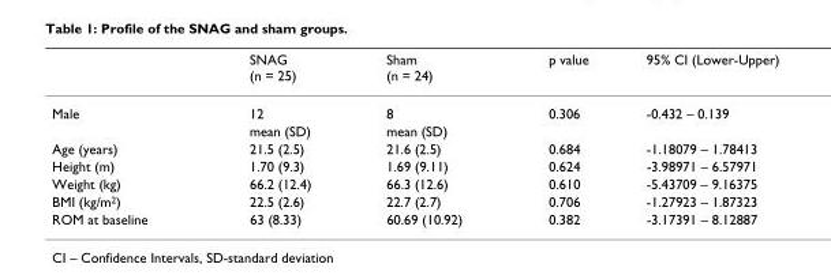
<table><thead><tr><td></td><td>SNAG (n = 25)</td><td>Sham (n = 24)</td><td>p value</td><td>95% CI (Lower-Upper)</td></tr></thead><tbody><tr><td rowspan="2">Male</td><td>12</td><td>8</td><td>0.306</td><td>-0.432 – 0.139</td></tr><tr><td>mean (SD)</td><td>mean (SD)</td><td></td><td></td></tr><tr><td>Age (years)</td><td>21.5 (2.5)</td><td>21.6 (2.5)</td><td>0.684</td><td>-1.18079 – 1.78413</td></tr><tr><td>Height (m)</td><td>1.70 (9.3)</td><td>1.69 (9.11)</td><td>0.624</td><td>-3.98971 – 6.57971</td></tr><tr><td>Weight (kg)</td><td>66.2 (12.4)</td><td>66.3 (12.6)</td><td>0.610</td><td>-5.43709 – 9.16375</td></tr><tr><td>BMI (kg/m<sup>2</sup>)</td><td>22.5 (2.6)</td><td>22.7 (2.7)</td><td>0.706</td><td>-1.27923 – 1.87323</td></tr><tr><td>ROM at baseline</td><td>63 (8.33)</td><td>60.69 (10.92)</td><td>0.382</td><td>-3.17391 – 8.12887</td></tr></tbody></table>